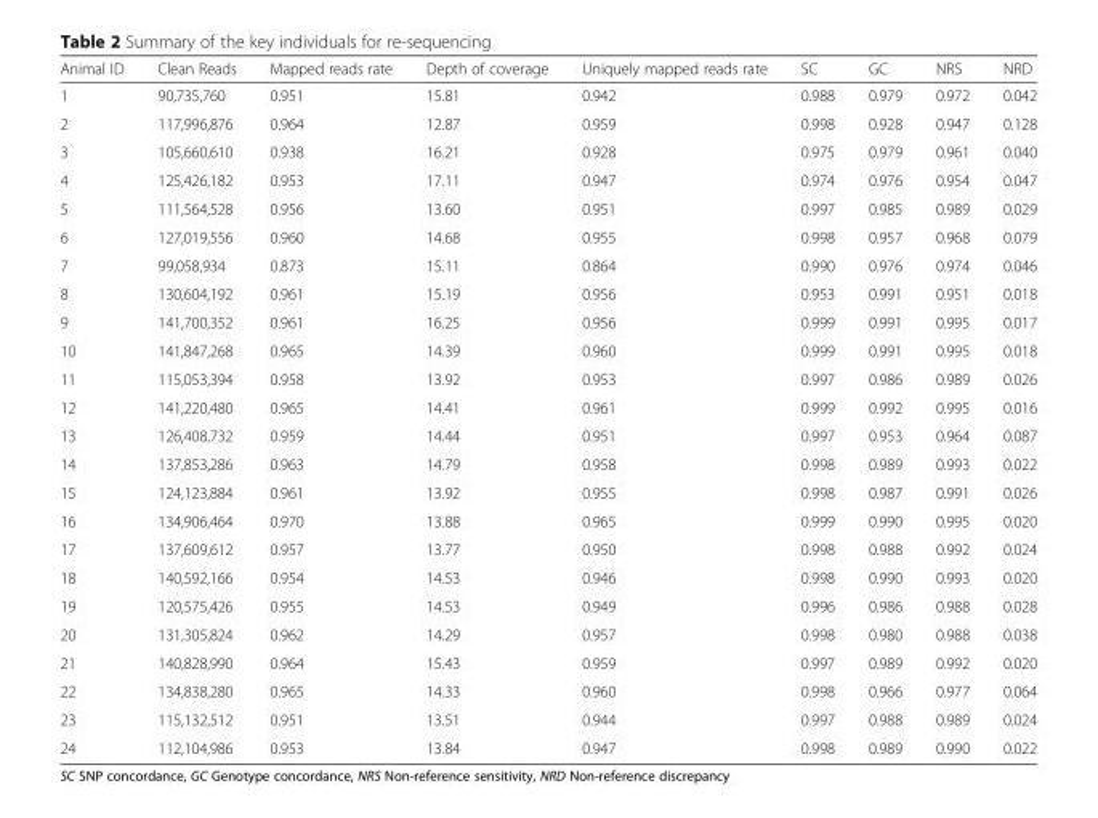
<table><thead><tr><td>Animal ID</td><td>Clean Reads</td><td>Mapped reads rate</td><td>Depth of coverage</td><td>Uniquely mapped reads rate</td><td>SC</td><td>GC</td><td>NRS</td><td>NRD</td></tr></thead><tbody><tr><td>1</td><td>90,735,760</td><td>0.951</td><td>15.81</td><td>0.942</td><td>0.988</td><td>0.979</td><td>0.972</td><td>0.042</td></tr><tr><td>2</td><td>117,996,876</td><td>0.964</td><td>12.87</td><td>0.959</td><td>0.998</td><td>0.928</td><td>0.947</td><td>0.128</td></tr><tr><td>3</td><td>105,660,610</td><td>0.938</td><td>16.21</td><td>0.928</td><td>0.975</td><td>0.979</td><td>0.961</td><td>0.040</td></tr><tr><td>4</td><td>125,426,182</td><td>0.953</td><td>17.11</td><td>0.947</td><td>0.974</td><td>0.976</td><td>0.954</td><td>0.047</td></tr><tr><td>5</td><td>111,564,528</td><td>0.956</td><td>13.60</td><td>0.951</td><td>0.997</td><td>0.985</td><td>0.989</td><td>0.029</td></tr><tr><td>6</td><td>127,019,556</td><td>0.960</td><td>14.68</td><td>0.955</td><td>0.998</td><td>0.957</td><td>0.968</td><td>0.079</td></tr><tr><td>7</td><td>99,058,934</td><td>0.873</td><td>15.11</td><td>0.864</td><td>0.990</td><td>0.976</td><td>0.974</td><td>0.046</td></tr><tr><td>8</td><td>130,604,192</td><td>0.961</td><td>15.19</td><td>0.956</td><td>0.953</td><td>0.991</td><td>0.951</td><td>0.018</td></tr><tr><td>9</td><td>141,700,352</td><td>0.961</td><td>16.25</td><td>0.956</td><td>0.999</td><td>0.991</td><td>0.995</td><td>0.017</td></tr><tr><td>10</td><td>141,847,268</td><td>0.965</td><td>14.39</td><td>0.960</td><td>0.999</td><td>0.991</td><td>0.995</td><td>0.018</td></tr><tr><td>11</td><td>115,053,394</td><td>0.958</td><td>13.92</td><td>0.953</td><td>0.997</td><td>0.986</td><td>0.989</td><td>0.026</td></tr><tr><td>12</td><td>141,220,480</td><td>0.965</td><td>14.41</td><td>0.961</td><td>0.999</td><td>0.992</td><td>0.995</td><td>0.016</td></tr><tr><td>13</td><td>126,408,732</td><td>0.959</td><td>14.44</td><td>0.951</td><td>0.997</td><td>0.953</td><td>0.964</td><td>0.087</td></tr><tr><td>14</td><td>137,853,286</td><td>0.963</td><td>14.79</td><td>0.958</td><td>0.998</td><td>0.989</td><td>0.993</td><td>0.022</td></tr><tr><td>15</td><td>124,123,884</td><td>0.961</td><td>13.92</td><td>0.955</td><td>0.998</td><td>0.987</td><td>0.991</td><td>0.026</td></tr><tr><td>16</td><td>134,906,464</td><td>0.970</td><td>13.88</td><td>0.965</td><td>0.999</td><td>0.990</td><td>0.995</td><td>0.020</td></tr><tr><td>17</td><td>137,609,612</td><td>0.957</td><td>13.77</td><td>0.950</td><td>0.998</td><td>0.988</td><td>0.992</td><td>0.024</td></tr><tr><td>18</td><td>140,592,166</td><td>0.954</td><td>14.53</td><td>0.946</td><td>0.998</td><td>0.990</td><td>0.993</td><td>0.020</td></tr><tr><td>19</td><td>120,575,426</td><td>0.955</td><td>14.53</td><td>0.949</td><td>0.996</td><td>0.986</td><td>0.988</td><td>0.028</td></tr><tr><td>20</td><td>131,305,824</td><td>0.962</td><td>14.29</td><td>0.957</td><td>0.998</td><td>0.980</td><td>0.988</td><td>0.038</td></tr><tr><td>21</td><td>140,828,990</td><td>0.964</td><td>15.43</td><td>0.959</td><td>0.997</td><td>0.989</td><td>0.992</td><td>0.020</td></tr><tr><td>22</td><td>134,838,280</td><td>0.965</td><td>14.33</td><td>0.960</td><td>0.998</td><td>0.966</td><td>0.977</td><td>0.064</td></tr><tr><td>23</td><td>115,132,512</td><td>0.951</td><td>13.51</td><td>0.944</td><td>0.997</td><td>0.988</td><td>0.989</td><td>0.024</td></tr><tr><td>24</td><td>112,104,986</td><td>0.953</td><td>13.84</td><td>0.947</td><td>0.998</td><td>0.989</td><td>0.990</td><td>0.022</td></tr></tbody></table>